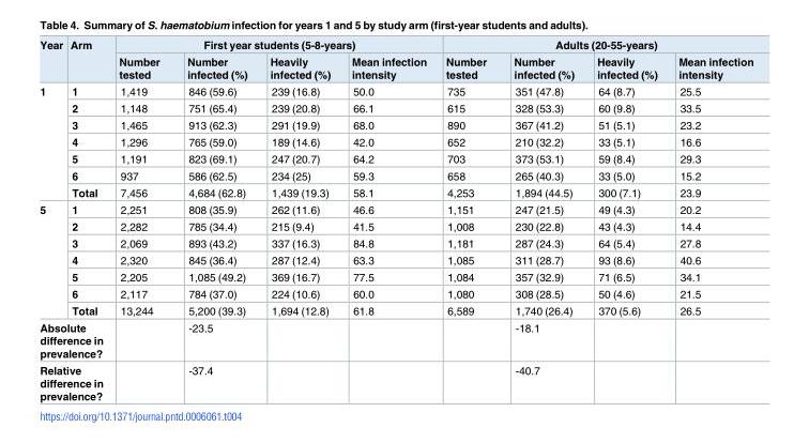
<table><thead><tr><td rowspan="2">Year</td><td rowspan="2">Arm</td><td colspan="4">First year students (5-8-years)</td><td colspan="4">Adults (20-55-years)</td></tr><tr><td>Number tested</td><td>Number infected (%)</td><td>Heavily infected (%)</td><td>Mean infection intensity</td><td>Number tested</td><td>Number infected (%)</td><td>Heavily infected (%)</td><td>Mean infection intensity</td></tr></thead><tbody><tr><td rowspan="7">1</td><td>1</td><td>1,419</td><td>846 (59.6)</td><td>239 (16.8)</td><td>50.0</td><td>735</td><td>351 (47.8)</td><td>64 (8.7)</td><td>25.5</td></tr><tr><td>2</td><td>1,148</td><td>751 (65.4)</td><td>239 (20.8)</td><td>66.1</td><td>615</td><td>328 (53.3)</td><td>60 (9.8)</td><td>33.5</td></tr><tr><td>3</td><td>1,465</td><td>913 (62.3)</td><td>291 (19.9)</td><td>68.0</td><td>890</td><td>367 (41.2)</td><td>51 (5.1)</td><td>23.2</td></tr><tr><td>4</td><td>1,296</td><td>765 (59.0)</td><td>189 (14.6)</td><td>42.0</td><td>652</td><td>210 (32.2)</td><td>33 (5.1)</td><td>16.6</td></tr><tr><td>5</td><td>1,191</td><td>823 (69.1)</td><td>247 (20.7)</td><td>64.2</td><td>703</td><td>373 (53.1)</td><td>59 (8.4)</td><td>29.3</td></tr><tr><td>6</td><td>937</td><td>586 (62.5)</td><td>234 (25)</td><td>59.3</td><td>658</td><td>265 (40.3)</td><td>33 (5.0)</td><td>15.2</td></tr><tr><td>Total</td><td>7,456</td><td>4,684 (62.8)</td><td>1,439 (19.3)</td><td>58.1</td><td>4,253</td><td>1,894 (44.5)</td><td>300 (7.1)</td><td>23.9</td></tr><tr><td rowspan="7">5</td><td>1</td><td>2,251</td><td>808 (35.9)</td><td>262 (11.6)</td><td>46.6</td><td>1,151</td><td>247 (21.5)</td><td>49 (4.3)</td><td>20.2</td></tr><tr><td>2</td><td>2,282</td><td>785 (34.4)</td><td>215 (9.4)</td><td>41.5</td><td>1,008</td><td>230 (22.8)</td><td>43 (4.3)</td><td>14.4</td></tr><tr><td>3</td><td>2,069</td><td>893 (43.2)</td><td>337 (16.3)</td><td>84.8</td><td>1,181</td><td>287 (24.3)</td><td>64 (5.4)</td><td>27.8</td></tr><tr><td>4</td><td>2,320</td><td>845 (36.4)</td><td>287 (12.4)</td><td>63.3</td><td>1,085</td><td>311 (28.7)</td><td>93 (8.6)</td><td>40.6</td></tr><tr><td>5</td><td>2,205</td><td>1,085 (49.2)</td><td>369 (16.7)</td><td>77.5</td><td>1,084</td><td>357 (32.9)</td><td>71 (6.5)</td><td>34.1</td></tr><tr><td>6</td><td>2,117</td><td>784 (37.0)</td><td>224 (10.6)</td><td>60.0</td><td>1,080</td><td>308 (28.5)</td><td>50 (4.6)</td><td>21.5</td></tr><tr><td>Total</td><td>13,244</td><td>5,200 (39.3)</td><td>1,694 (12.8)</td><td>61.8</td><td>6,589</td><td>1,740 (26.4)</td><td>370 (5.6)</td><td>26.5</td></tr><tr><td colspan="2">Absolute difference in prevalence?</td><td></td><td>-23.5</td><td></td><td></td><td></td><td>-18.1</td><td></td><td></td></tr><tr><td colspan="2">Relative difference in prevalence?</td><td></td><td>-37.4</td><td></td><td></td><td></td><td>-40.7</td><td></td><td></td></tr></tbody></table>